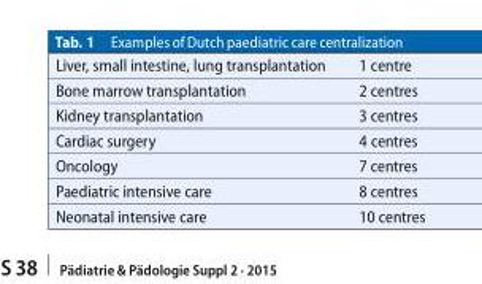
<table><tbody><tr><td>Liver, small intestine, lung transplantation</td><td>1 centre</td></tr><tr><td>Bone marrow transplantation</td><td>2 centres</td></tr><tr><td>Kidney transplantation</td><td>3 centres</td></tr><tr><td>Cardiac surgery</td><td>4 centres</td></tr><tr><td>Oncology</td><td>7 centres</td></tr><tr><td>Paediatric intensive care</td><td>8 centres</td></tr><tr><td>Neonatal intensive care</td><td>10 centres</td></tr></tbody></table>